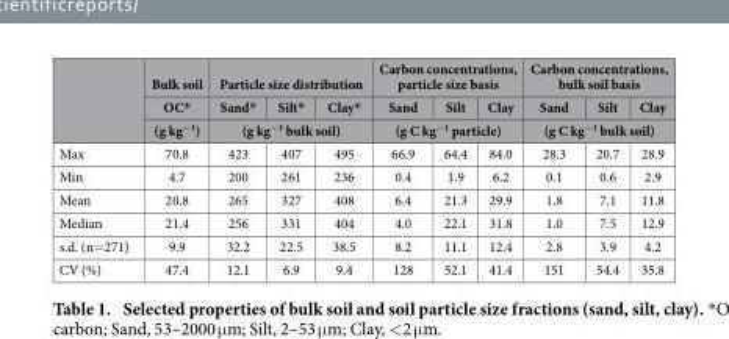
<table><thead><tr><td rowspan="3"></td><td rowspan="3">Bulk soil OC* (g kg<sup>−1</sup>)</td><td colspan="3">Particle size distribution</td><td colspan="3">Carbon concentrations, particle size basis</td><td colspan="3">Carbon concentrations, bulk soil basis</td></tr><tr><td>Sand*</td><td>Silt*</td><td>Clay*</td><td>Sand</td><td>Silt</td><td>Clay</td><td>Sand</td><td>Silt</td><td>Clay</td></tr><tr><td colspan="3">(g kg<sup>−1</sup> bulk soil)</td><td colspan="3">(g C kg<sup>−1</sup> particle)</td><td colspan="3">(g C kg<sup>−1</sup> bulk soil)</td></tr></thead><tbody><tr><td>Max</td><td>70.8</td><td>423</td><td>407</td><td>495</td><td>66.9</td><td>64.4</td><td>84.0</td><td>28.3</td><td>20.7</td><td>28.9</td></tr><tr><td>Min</td><td>4.7</td><td>200</td><td>261</td><td>236</td><td>0.4</td><td>1.9</td><td>6.2</td><td>0.1</td><td>0.6</td><td>2.9</td></tr><tr><td>Mean</td><td>20.8</td><td>265</td><td>327</td><td>408</td><td>6.4</td><td>21.3</td><td>29.9</td><td>1.8</td><td>7.1</td><td>11.8</td></tr><tr><td>Median</td><td>21.4</td><td>256</td><td>331</td><td>404</td><td>4.0</td><td>22.1</td><td>31.8</td><td>1.0</td><td>7.5</td><td>12.9</td></tr><tr><td>s.d. (n= 271)</td><td>9.9</td><td>32.2</td><td>22.5</td><td>38.5</td><td>8.2</td><td>11.1</td><td>12.4</td><td>2.8</td><td>3.9</td><td>4.2</td></tr><tr><td>CV (%)</td><td>47.4</td><td>12.1</td><td>6.9</td><td>9.4</td><td>128</td><td>52.1</td><td>41.4</td><td>151</td><td>54.4</td><td>35.8</td></tr></tbody></table>